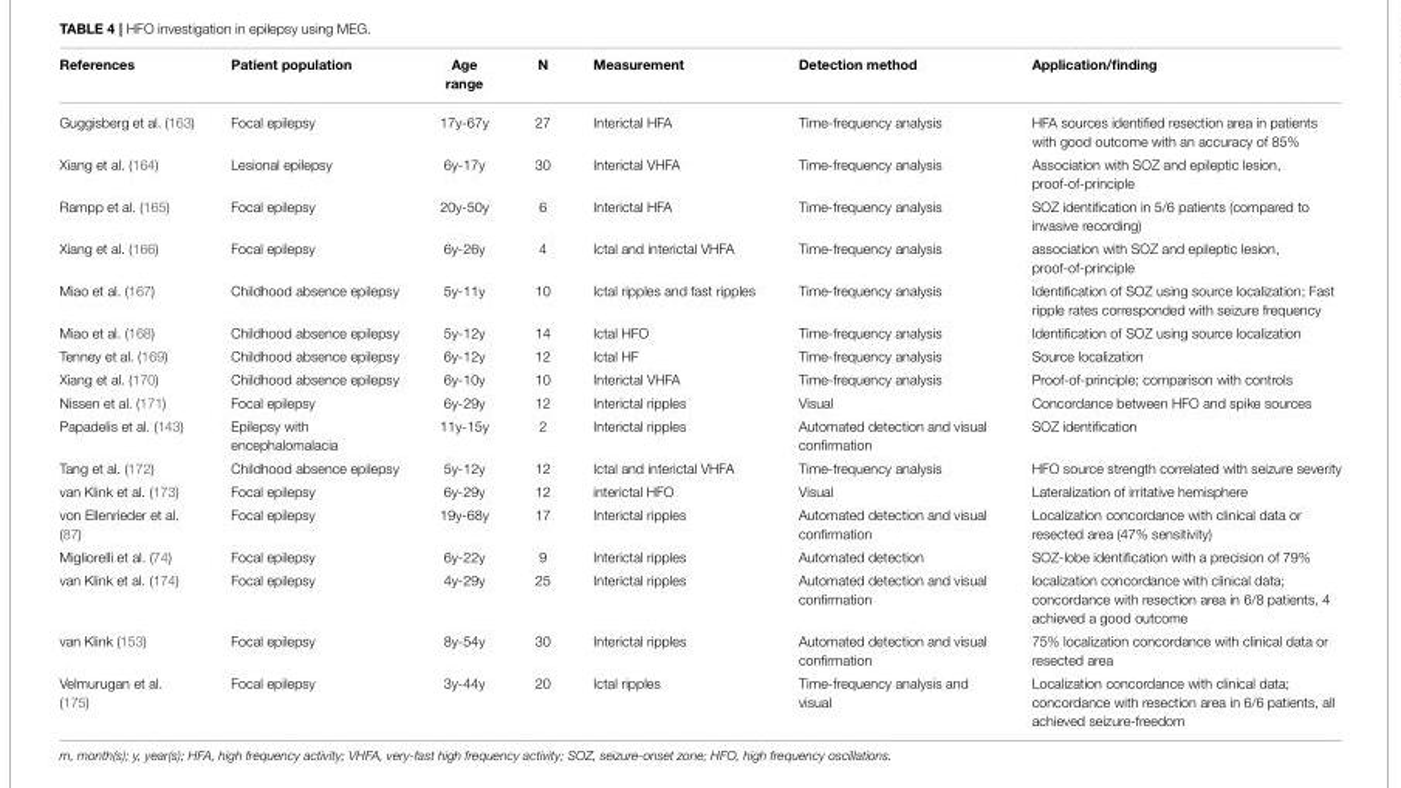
<table><thead><tr><td>References</td><td>Patient population</td><td>Age range</td><td>N</td><td>Measurement</td><td>Detection method</td><td>Application/finding</td></tr></thead><tbody><tr><td>Guggisberg et al. (163)</td><td>Focal epilepsy</td><td>17y-67y</td><td>27</td><td>Interictal HFA</td><td>Time-frequency analysis</td><td>HFA sources identified resection area in patients with good outcome with an accuracy of 85%</td></tr><tr><td>Xiang et al. (164)</td><td>Lesional epilepsy</td><td>6y-17y</td><td>30</td><td>Interictal VHFA</td><td>Time-frequency analysis</td><td>Association with SOZ and epileptic lesion, proof-of-principle</td></tr><tr><td>Rampp et al. (165)</td><td>Focal epilepsy</td><td>20y-50y</td><td>6</td><td>Interictal HFA</td><td>Time-frequency analysis</td><td>SOZ identification in 5/6 patients (compared to invasive recording)</td></tr><tr><td>Xiang et al. (166)</td><td>Focal epilepsy</td><td>6y-26y</td><td>4</td><td>Ictal and interictal VHFA</td><td>Time-frequency analysis</td><td>association with SOZ and epileptic lesion, proof-of-principle</td></tr><tr><td>Miao et al. (167)</td><td>Childhood absence epilepsy</td><td>5y-11y</td><td>10</td><td>Ictal ripples and fast ripples</td><td>Time-frequency analysis</td><td>Identification of SOZ using source localization; Fast ripple rates corresponded with seizure frequency</td></tr><tr><td>Miao et al. (168)</td><td>Childhood absence epilepsy</td><td>5y-12y</td><td>14</td><td>Ictal HFO</td><td>Time-frequency analysis</td><td>Identification of SOZ using source localization</td></tr><tr><td>Tenney et al. (169)</td><td>Childhood absence epilepsy</td><td>6y-12y</td><td>12</td><td>Ictal HF</td><td>Time-frequency analysis</td><td>Source localization</td></tr><tr><td>Xiang et al. (170)</td><td>Childhood absence epilepsy</td><td>6y-10y</td><td>10</td><td>Interictal VHFA</td><td>Time-frequency analysis</td><td>Proof-of-principle; comparison with controls</td></tr><tr><td>Nissen et al. (171)</td><td>Focal epilepsy</td><td>6y-29y</td><td>12</td><td>Interictal ripples</td><td>Visual</td><td>Concordance between HFO and spike sources</td></tr><tr><td>Papadelis et al. (143)</td><td>Epilepsy with encephalomalacia</td><td>11y-15y</td><td>2</td><td>Interictal ripples</td><td>Automated detection and visual confirmation</td><td>SOZ identification</td></tr><tr><td>Tang et al. (172)</td><td>Childhood absence epilepsy</td><td>5y-12y</td><td>12</td><td>Ictal and interictal VHFA</td><td>Time-frequency analysis</td><td>HFO source strength correlated with seizure severity</td></tr><tr><td>van Klink et al. (173)</td><td>Focal epilepsy</td><td>6y-29y</td><td>12</td><td>interictal HFO</td><td>Visual</td><td>Lateralization of irritative hemisphere</td></tr><tr><td>von Ellenrieder et al. (87)</td><td>Focal epilepsy</td><td>19y-68y</td><td>17</td><td>Interictal ripples</td><td>Automated detection and visual confirmation</td><td>Localization concordance with clinical data or resected area (47% sensitivity)</td></tr><tr><td>Migliorelli et al. (74)</td><td>Focal epilepsy</td><td>6y-22y</td><td>9</td><td>Interictal ripples</td><td>Automated detection</td><td>SOZ-lobe identification with a precision of 79%</td></tr><tr><td>van Klink et al. (174)</td><td>Focal epilepsy</td><td>4y-29y</td><td>25</td><td>Interictal ripples</td><td>Automated detection and visual confirmation</td><td>localization concordance with clinical data; concordance with resection area in 6/8 patients, 4 achieved a good outcome</td></tr><tr><td>van Klink (153)</td><td>Focal epilepsy</td><td>8y-54y</td><td>30</td><td>Interictal ripples</td><td>Automated detection and visual confirmation</td><td>75% localization concordance with clinical data or resected area</td></tr><tr><td>Velmurugan et al. (175)</td><td>Focal epilepsy</td><td>3y-44y</td><td>20</td><td>Ictal ripples</td><td>Time-frequency analysis and visual</td><td>Localization concordance with clinical data; concordance with resection area in 6/6 patients, all achieved seizure-freedom</td></tr></tbody></table>